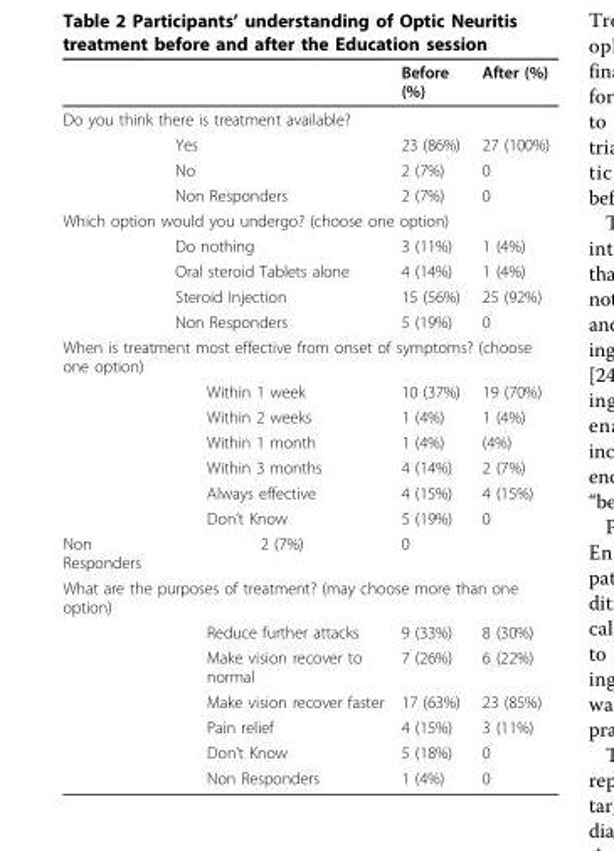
<table><thead><tr><td></td><td></td><td>Before (%)</td><td>After (%)</td></tr></thead><tbody><tr><td colspan="4">Do you think there is treatment available?</td></tr><tr><td></td><td>Yes</td><td>23 (86%)</td><td>27 (100%)</td></tr><tr><td></td><td>No</td><td>2 (7%)</td><td>0</td></tr><tr><td></td><td>Non Responders</td><td>2 (7%)</td><td>0</td></tr><tr><td colspan="4">Which option would you undergo? (choose one option)</td></tr><tr><td></td><td>Do nothing</td><td>3 (11%)</td><td>1 (4%)</td></tr><tr><td></td><td>Oral steroid Tablets alone</td><td>4 (14%)</td><td>1 (4%)</td></tr><tr><td></td><td>Steroid Injection</td><td>15 (56%)</td><td>25 (92%)</td></tr><tr><td></td><td>Non Responders</td><td>5 (19%)</td><td>0</td></tr><tr><td colspan="4">When is treatment most effective from onset of symptoms? (choose one option)</td></tr><tr><td></td><td>Within 1 week</td><td>10 (37%)</td><td>19 (70%)</td></tr><tr><td></td><td>Within 2 weeks</td><td>1 (4%)</td><td>1 (4%)</td></tr><tr><td></td><td>Within 1 month</td><td>1 (4%)</td><td>(4%)</td></tr><tr><td></td><td>Within 3 months</td><td>4 (14%)</td><td>2 (7%)</td></tr><tr><td></td><td>Always effective</td><td>4 (15%)</td><td>4 (15%)</td></tr><tr><td></td><td>Don’t Know</td><td>5 (19%)</td><td>0</td></tr><tr><td>Non Responders</td><td>2 (7%)</td><td>0</td><td></td></tr><tr><td colspan="4">What are the purposes of treatment? (may choose more than one option)</td></tr><tr><td></td><td>Reduce further attacks</td><td>9 (33%)</td><td>8 (30%)</td></tr><tr><td></td><td>Make vision recover to normal</td><td>7 (26%)</td><td>6 (22%)</td></tr><tr><td></td><td>Make vision recover faster</td><td>17 (63%)</td><td>23 (85%)</td></tr><tr><td></td><td>Pain relief</td><td>4 (15%)</td><td>3 (11%)</td></tr><tr><td></td><td>Don’t Know</td><td>5 (18%)</td><td>0</td></tr><tr><td></td><td>Non Responders</td><td>1 (4%)</td><td>0</td></tr></tbody></table>